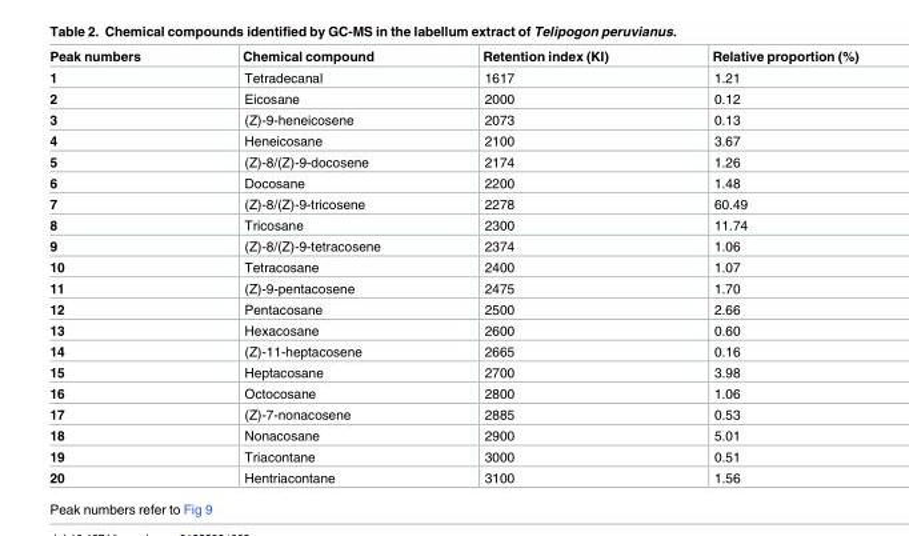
<table><thead><tr><td>Peak numbers</td><td>Chemical compound</td><td>Retention index (KI)</td><td>Relative proportion (%)</td></tr></thead><tbody><tr><td>1</td><td>Tetradecanal</td><td>1617</td><td>1.21</td></tr><tr><td>2</td><td>Eicosane</td><td>2000</td><td>0.12</td></tr><tr><td>3</td><td>(Z)-9-heneicosene</td><td>2073</td><td>0.13</td></tr><tr><td>4</td><td>Heneicosane</td><td>2100</td><td>3.67</td></tr><tr><td>5</td><td>(Z)-8/(Z)-9-docosene</td><td>2174</td><td>1.26</td></tr><tr><td>6</td><td>Docosane</td><td>2200</td><td>1.48</td></tr><tr><td>7</td><td>(Z)-8/(Z)-9-tricosene</td><td>2278</td><td>60.49</td></tr><tr><td>8</td><td>Tricosane</td><td>2300</td><td>11.74</td></tr><tr><td>9</td><td>(Z)-8/(Z)-9-tetracosene</td><td>2374</td><td>1.06</td></tr><tr><td>10</td><td>Tetracosane</td><td>2400</td><td>1.07</td></tr><tr><td>11</td><td>(Z)-9-pentacosene</td><td>2475</td><td>1.70</td></tr><tr><td>12</td><td>Pentacosane</td><td>2500</td><td>2.66</td></tr><tr><td>13</td><td>Hexacosane</td><td>2600</td><td>0.60</td></tr><tr><td>14</td><td>(Z)-11-heptacosene</td><td>2665</td><td>0.16</td></tr><tr><td>15</td><td>Heptacosane</td><td>2700</td><td>3.98</td></tr><tr><td>16</td><td>Octocosane</td><td>2800</td><td>1.06</td></tr><tr><td>17</td><td>(Z)-7-nonacosene</td><td>2885</td><td>0.53</td></tr><tr><td>18</td><td>Nonacosane</td><td>2900</td><td>5.01</td></tr><tr><td>19</td><td>Triacontane</td><td>3000</td><td>0.51</td></tr><tr><td>20</td><td>Hentriacontane</td><td>3100</td><td>1.56</td></tr></tbody></table>